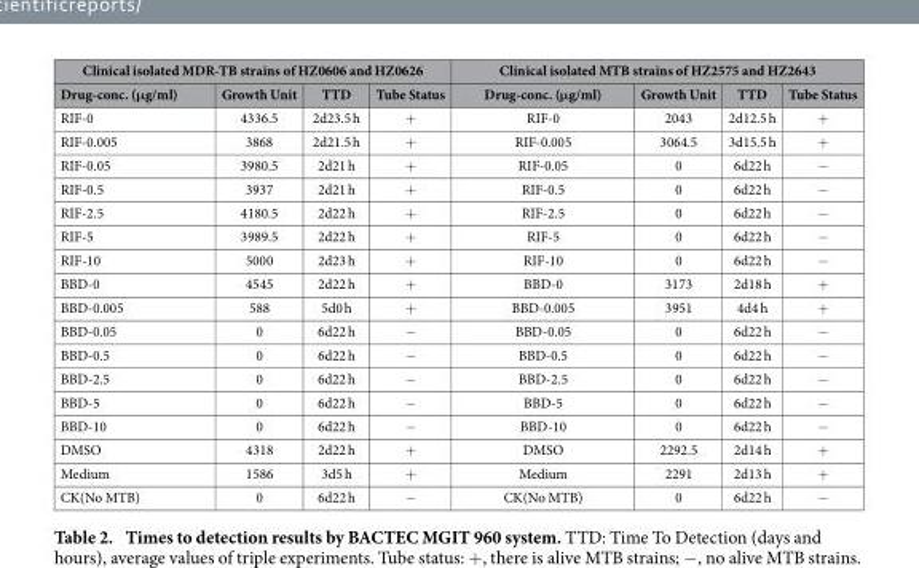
<table><thead><tr><td colspan="4">Clinical isolated MDR-TB strains of HZ0606 and HZ0626</td><td colspan="4">Clinical isolated MTB strains of HZ2575 and HZ2643</td></tr><tr><td>Drug-conc. (μg/ml)</td><td>Growth Unit</td><td>TTD</td><td>Tube Status</td><td>Drug-conc. (μg/ml)</td><td>Growth Unit</td><td>TTD</td><td>Tube Status</td></tr></thead><tbody><tr><td>RIF-0</td><td>4336.5</td><td>2d23.5 h</td><td>+</td><td>RIF-0</td><td>2043</td><td>2d12.5 h</td><td>+</td></tr><tr><td>RIF-0.005</td><td>3868</td><td>2d21.5 h</td><td>+</td><td>RIF-0.005</td><td>3064.5</td><td>3d15.5 h</td><td>+</td></tr><tr><td>RIF-0.05</td><td>3980.5</td><td>2d21 h</td><td>+</td><td>RIF-0.05</td><td>0</td><td>6d22 h</td><td>−</td></tr><tr><td>RIF-0.5</td><td>3937</td><td>2d21 h</td><td>+</td><td>RIF-0.5</td><td>0</td><td>6d22 h</td><td>−</td></tr><tr><td>RIF-2.5</td><td>4180.5</td><td>2d22 h</td><td>+</td><td>RIF-2.5</td><td>0</td><td>6d22 h</td><td>−</td></tr><tr><td>RIF-5</td><td>3989.5</td><td>2d22 h</td><td>+</td><td>RIF-5</td><td>0</td><td>6d22 h</td><td>−</td></tr><tr><td>RIF-10</td><td>5000</td><td>2d23 h</td><td>+</td><td>RIF-10</td><td>0</td><td>6d22 h</td><td>−</td></tr><tr><td>BBD-0</td><td>4545</td><td>2d22 h</td><td>+</td><td>BBD-0</td><td>3173</td><td>2d18 h</td><td>+</td></tr><tr><td>BBD-0.005</td><td>588</td><td>5d0 h</td><td>+</td><td>BBD-0.005</td><td>3951</td><td>4d4 h</td><td>+</td></tr><tr><td>BBD-0.05</td><td>0</td><td>6d22 h</td><td>−</td><td>BBD-0.05</td><td>0</td><td>6d22 h</td><td>−</td></tr><tr><td>BBD-0.5</td><td>0</td><td>6d22 h</td><td>−</td><td>BBD-0.5</td><td>0</td><td>6d22 h</td><td>−</td></tr><tr><td>BBD-2.5</td><td>0</td><td>6d22 h</td><td>−</td><td>BBD-2.5</td><td>0</td><td>6d22 h</td><td>−</td></tr><tr><td>BBD-5</td><td>0</td><td>6d22 h</td><td>−</td><td>BBD-5</td><td>0</td><td>6d22 h</td><td>−</td></tr><tr><td>BBD-10</td><td>0</td><td>6d22 h</td><td>−</td><td>BBD-10</td><td>0</td><td>6d22 h</td><td>−</td></tr><tr><td>DMSO</td><td>4318</td><td>2d22 h</td><td>+</td><td>DMSO</td><td>2292.5</td><td>2d14 h</td><td>+</td></tr><tr><td>Medium</td><td>1586</td><td>3d5 h</td><td>+</td><td>Medium</td><td>2291</td><td>2d13 h</td><td>+</td></tr><tr><td>CK(No MTB)</td><td>0</td><td>6d22 h</td><td>−</td><td>CK(No MTB)</td><td>0</td><td>6d22 h</td><td>−</td></tr></tbody></table>